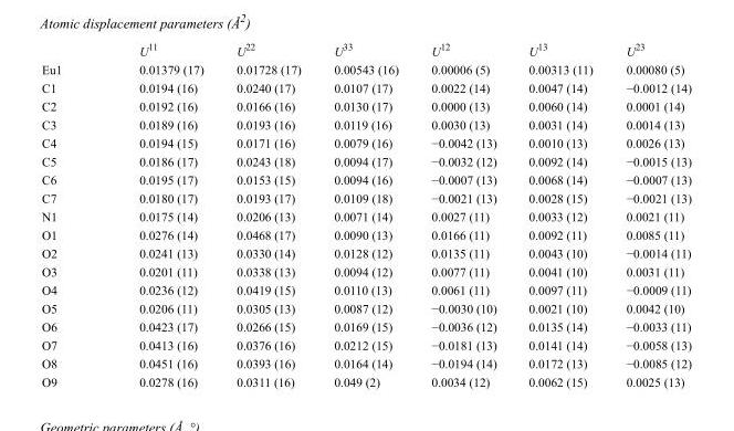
<table><thead><tr><td></td><td>U<sup>11</sup></td><td>U<sup>22</sup></td><td>U<sup>33</sup></td><td>U<sup>12</sup></td><td>U<sup>13</sup></td><td>U<sup>23</sup></td></tr></thead><tbody><tr><td>Eu1</td><td>0.01379 (17)</td><td>0.01728 (17)</td><td>0.00543 (16)</td><td>0.00006 (5)</td><td>0.00313 (11)</td><td>0.00080 (5)</td></tr><tr><td>C1</td><td>0.0194 (16)</td><td>0.0240 (17)</td><td>0.0107 (17)</td><td>0.0022 (14)</td><td>0.0047 (14)</td><td>−0.0012 (14)</td></tr><tr><td>C2</td><td>0.0192 (16)</td><td>0.0166 (16)</td><td>0.0130 (17)</td><td>0.0000 (13)</td><td>0.0060 (14)</td><td>0.0001 (14)</td></tr><tr><td>C3</td><td>0.0189 (16)</td><td>0.0193 (16)</td><td>0.0119 (16)</td><td>0.0030 (13)</td><td>0.0031 (14)</td><td>0.0014 (13)</td></tr><tr><td>C4</td><td>0.0194 (15)</td><td>0.0171 (16)</td><td>0.0079 (16)</td><td>−0.0042 (13)</td><td>0.0010 (13)</td><td>0.0026 (13)</td></tr><tr><td>C5</td><td>0.0186 (17)</td><td>0.0243 (18)</td><td>0.0094 (17)</td><td>−0.0032 (12)</td><td>0.0092 (14)</td><td>−0.0015 (13)</td></tr><tr><td>C6</td><td>0.0195 (17)</td><td>0.0153 (15)</td><td>0.0094 (16)</td><td>−0.0007 (13)</td><td>0.0068 (14)</td><td>−0.0007 (13)</td></tr><tr><td>C7</td><td>0.0180 (17)</td><td>0.0193 (17)</td><td>0.0109 (18)</td><td>−0.0021 (13)</td><td>0.0028 (15)</td><td>−0.0021 (13)</td></tr><tr><td>N1</td><td>0.0175 (14)</td><td>0.0206 (13)</td><td>0.0071 (14)</td><td>0.0027 (11)</td><td>0.0033 (12)</td><td>0.0021 (11)</td></tr><tr><td>O1</td><td>0.0276 (14)</td><td>0.0468 (17)</td><td>0.0090 (13)</td><td>0.0166 (11)</td><td>0.0092 (11)</td><td>0.0085 (11)</td></tr><tr><td>O2</td><td>0.0241 (13)</td><td>0.0330 (14)</td><td>0.0128 (12)</td><td>0.0135 (11)</td><td>0.0043 (10)</td><td>−0.0014 (11)</td></tr><tr><td>O3</td><td>0.0201 (11)</td><td>0.0338 (13)</td><td>0.0094 (12)</td><td>0.0077 (11)</td><td>0.0041 (10)</td><td>0.0031 (11)</td></tr><tr><td>O4</td><td>0.0236 (12)</td><td>0.0419 (15)</td><td>0.0110 (13)</td><td>0.0061 (11)</td><td>0.0097 (11)</td><td>−0.0009 (11)</td></tr><tr><td>O5</td><td>0.0206 (11)</td><td>0.0305 (13)</td><td>0.0087 (12)</td><td>−0.0030 (10)</td><td>0.0021 (10)</td><td>0.0042 (10)</td></tr><tr><td>O6</td><td>0.0423 (17)</td><td>0.0266 (15)</td><td>0.0169 (15)</td><td>−0.0036 (12)</td><td>0.0135 (14)</td><td>−0.0033 (11)</td></tr><tr><td>O7</td><td>0.0413 (16)</td><td>0.0376 (16)</td><td>0.0212 (15)</td><td>−0.0181 (13)</td><td>0.0141 (14)</td><td>−0.0058 (13)</td></tr><tr><td>O8</td><td>0.0451 (16)</td><td>0.0393 (16)</td><td>0.0164 (14)</td><td>−0.0194 (14)</td><td>0.0172 (13)</td><td>−0.0085 (12)</td></tr><tr><td>O9</td><td>0.0278 (16)</td><td>0.0311 (16)</td><td>0.049 (2)</td><td>0.0034 (12)</td><td>0.0062 (15)</td><td>0.0025 (13)</td></tr></tbody></table>